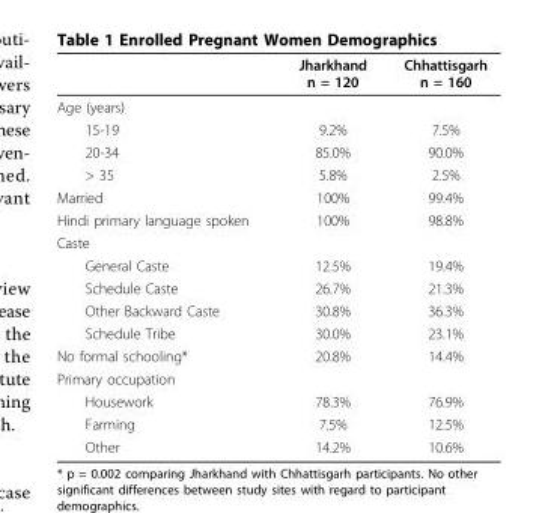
<table><thead><tr><td></td><td>Jharkhand n = 120</td><td>Chhattisgarh n = 160</td></tr></thead><tbody><tr><td colspan="3">Age (years)</td></tr><tr><td>15-19</td><td>9.2%</td><td>7.5%</td></tr><tr><td>20-34</td><td>85.0%</td><td>90.0%</td></tr><tr><td>&gt; 35</td><td>5.8%</td><td>2.5%</td></tr><tr><td>Married</td><td>100%</td><td>99.4%</td></tr><tr><td>Hindi primary language spoken</td><td>100%</td><td>98.8%</td></tr><tr><td colspan="3">Caste</td></tr><tr><td>General Caste</td><td>12.5%</td><td>19.4%</td></tr><tr><td>Schedule Caste</td><td>26.7%</td><td>21.3%</td></tr><tr><td>Other Backward Caste</td><td>30.8%</td><td>36.3%</td></tr><tr><td>Schedule Tribe</td><td>30.0%</td><td>23.1%</td></tr><tr><td>No formal schooling*</td><td>20.8%</td><td>14.4%</td></tr><tr><td colspan="3">Primary occupation</td></tr><tr><td>Housework</td><td>78.3%</td><td>76.9%</td></tr><tr><td>Farming</td><td>7.5%</td><td>12.5%</td></tr><tr><td>Other</td><td>14.2%</td><td>10.6%</td></tr></tbody></table>